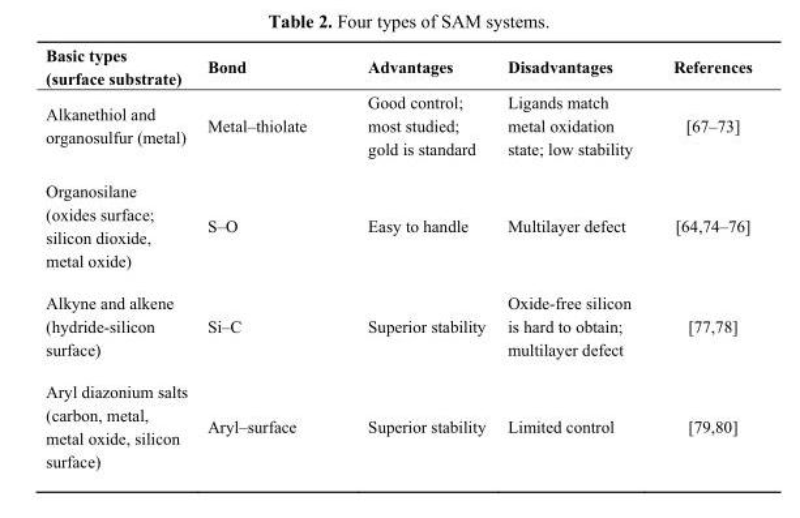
<table><thead><tr><td>Basic types (surface substrate)</td><td>Bond</td><td>Advantages</td><td>Disadvantages</td><td>References</td></tr></thead><tbody><tr><td>Alkanethiol and organosulfur (metal)</td><td>Metal–thiolate</td><td>Good control; most studied; gold is standard</td><td>Ligands match metal oxidation state; low stability</td><td>[67–73]</td></tr><tr><td>Organosilane (oxides surface; silicon dioxide, metal oxide)</td><td>S–O</td><td>Easy to handle</td><td>Multilayer defect</td><td>[64,74–76]</td></tr><tr><td>Alkyne and alkene (hydride-silicon surface)</td><td>Si–C</td><td>Superior stability</td><td>Oxide-free silicon is hard to obtain; multilayer defect</td><td>[77,78]</td></tr><tr><td>Aryl diazonium salts (carbon, metal, metal oxide, silicon surface)</td><td>Aryl–surface</td><td>Superior stability</td><td>Limited control</td><td>[79,80]</td></tr></tbody></table>